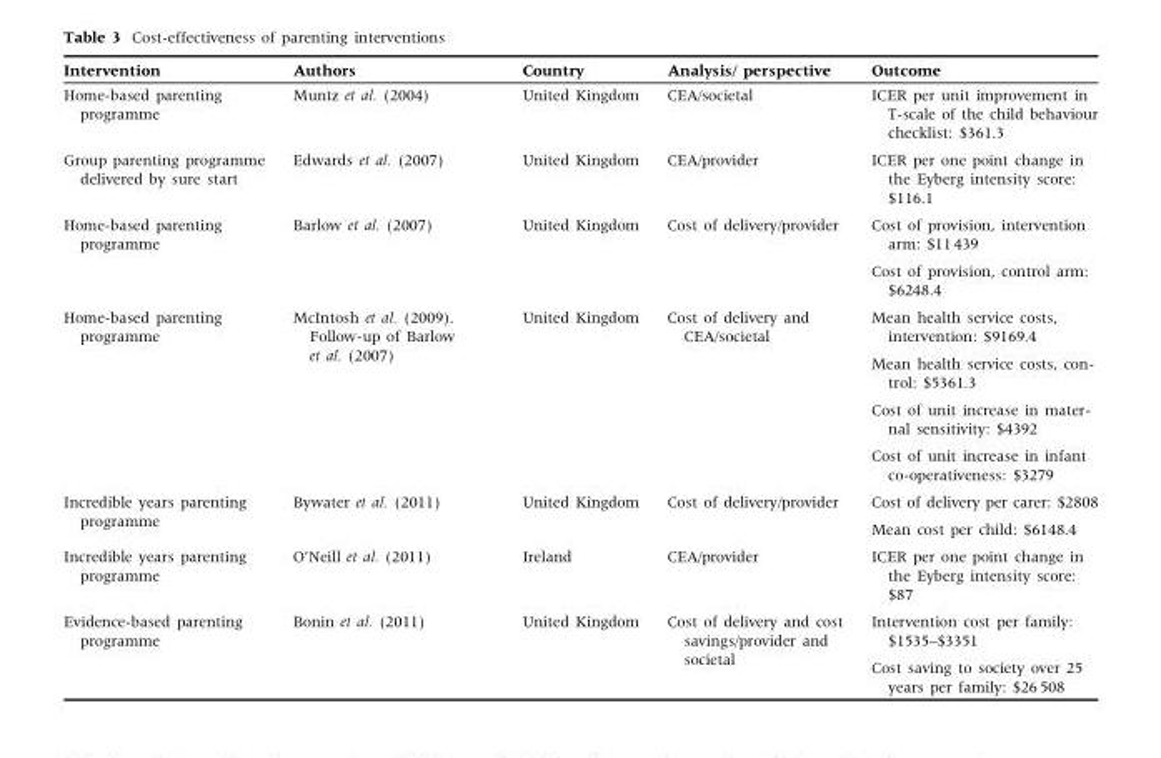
<table><thead><tr><td>Intervention</td><td>Authors</td><td>Country</td><td>Analysis/ perspective</td><td>Outcome</td></tr></thead><tbody><tr><td>Home-based parenting programme</td><td>Muntz et al. (2004)</td><td>United Kingdom</td><td>CEA/societal</td><td>ICER per unit improvement in T-scale of the child behaviour checklist: $361.3</td></tr><tr><td>Group parenting programme delivered by sure start</td><td>Edwards et al. (2007)</td><td>United Kingdom</td><td>CEA/provider</td><td>ICER per one point change in the Eyberg intensity score: $116.1</td></tr><tr><td rowspan="2">Home-based parenting programme</td><td rowspan="2">Barlow et al. (2007)</td><td rowspan="2">United Kingdom</td><td rowspan="2">Cost of delivery/provider</td><td>Cost of provision, intervention arm: $11 439</td></tr><tr><td>Cost of provision, control arm: $6248.4</td></tr><tr><td rowspan="4">Home-based parenting programme</td><td rowspan="4">McIntosh et al. (2009). Follow-up of Barlow et al. (2007)</td><td rowspan="4">United Kingdom</td><td rowspan="4">Cost of delivery and CEA/societal</td><td>Mean health service costs, intervention: $9169.4</td></tr><tr><td>Mean health service costs, con- trol: $5361.3</td></tr><tr><td>Cost of unit increase in mater- nal sensitivity: $4392</td></tr><tr><td>Cost of unit increase in infant co-operativeness: $3279</td></tr><tr><td rowspan="2">Incredible years parenting programme</td><td rowspan="2">Bywater et al. (2011)</td><td rowspan="2">United Kingdom</td><td rowspan="2">Cost of delivery/provider</td><td>Cost of delivery per carer: $2808</td></tr><tr><td>Mean cost per child: $6148.4</td></tr><tr><td>Incredible years parenting programme</td><td>O’Neill et al. (2011)</td><td>Ireland</td><td>CEA/provider</td><td>ICER per one point change in the Eyberg intensity score: $87</td></tr><tr><td rowspan="2">Evidence-based parenting programme</td><td rowspan="2">Bonin et al. (2011)</td><td rowspan="2">United Kingdom</td><td rowspan="2">Cost of delivery and cost savings/provider and societal</td><td>Intervention cost per family: $1535–$3351</td></tr><tr><td>Cost saving to society over 25 years per family: $26 508</td></tr></tbody></table>